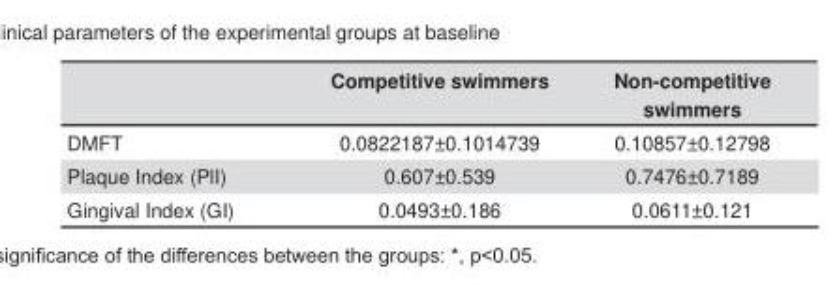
<table><thead><tr><td></td><td>Competitive swimmers</td><td>Non-competitive swimmers</td></tr></thead><tbody><tr><td>DMFT</td><td>0.0822187±0.1014739</td><td>0.10857±0.12798</td></tr><tr><td>Plaque Index (PlI)</td><td>0.607±0.539</td><td>0.7476±0.7189</td></tr><tr><td>Gingival Index (GI)</td><td>0.0493±0.186</td><td>0.0611±0.121</td></tr></tbody></table>